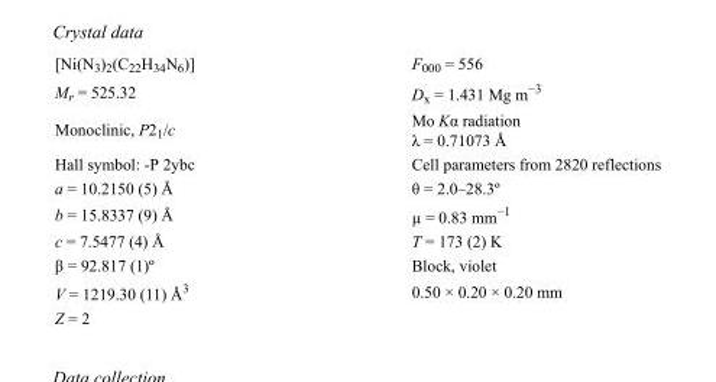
<table><tbody><tr><td>[Ni(N<sub>3</sub>)<sub>2</sub>(C<sub>22</sub>H<sub>34</sub>N<sub>6</sub>)]</td><td>F<sub>000</sub> = 556</td></tr><tr><td>M<sub>r</sub> = 525.32</td><td>D<sub>x</sub> = 1.431 Mg m<sup>−3</sup></td></tr><tr><td>Monoclinic, P2<sub>1</sub>/c</td><td>Mo Kα radiation λ = 0.71073 Å</td></tr><tr><td>Hall symbol: -P 2ybc</td><td>Cell parameters from 2820 reflections</td></tr><tr><td>a = 10.2150 (5) Å</td><td>θ = 2.0–28.3º</td></tr><tr><td>b = 15.8337 (9) Å</td><td>µ = 0.83 mm<sup>−1</sup></td></tr><tr><td>c = 7.5477 (4) Å</td><td>T = 173 (2) K</td></tr><tr><td>β = 92.817 (1)º</td><td>Block, violet</td></tr><tr><td>V = 1219.30 (11) Å<sup>3</sup></td><td>0.50 × 0.20 × 0.20 mm</td></tr><tr><td>Z = 2</td><td></td></tr></tbody></table>